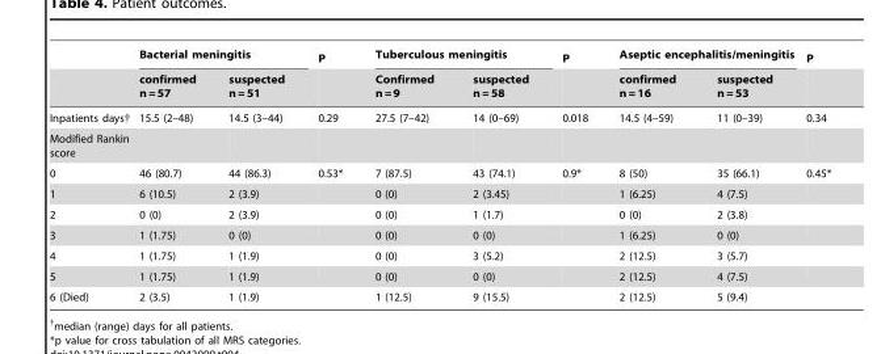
<table><thead><tr><td rowspan="2"></td><td colspan="2">Bacterial meningitis</td><td rowspan="2">P</td><td colspan="2">Tuberculous meningitis</td><td rowspan="2">P</td><td colspan="2">Aseptic encephalitis/meningitis</td><td rowspan="2">P</td></tr><tr><td>confirmed n = 57</td><td>suspected n = 51</td><td>Confirmed n = 9</td><td>suspected n = 58</td><td>confirmed n = 16</td><td>suspected n = 53</td></tr></thead><tbody><tr><td>Inpatients days†</td><td>15.5 (2–48)</td><td>14.5 (3–44)</td><td>0.29</td><td>27.5 (7–42)</td><td>14 (0–69)</td><td>0.018</td><td>14.5 (4–59)</td><td>11 (0–39)</td><td>0.34</td></tr><tr><td colspan="10">Modified Rankin score</td></tr><tr><td>0</td><td>46 (80.7)</td><td>44 (86.3)</td><td>0.53*</td><td>7 (87.5)</td><td>43 (74.1)</td><td>0.9*</td><td>8 (50)</td><td>35 (66.1)</td><td>0.45*</td></tr><tr><td>1</td><td>6 (10.5)</td><td>2 (3.9)</td><td></td><td>0 (0)</td><td>2 (3.45)</td><td></td><td>1 (6.25)</td><td>4 (7.5)</td><td></td></tr><tr><td>2</td><td>0 (0)</td><td>2 (3.9)</td><td></td><td>0 (0)</td><td>1 (1.7)</td><td></td><td>0 (0)</td><td>2 (3.8)</td><td></td></tr><tr><td>3</td><td>1 (1.75)</td><td>0 (0)</td><td></td><td>0 (0)</td><td>0 (0)</td><td></td><td>1 (6.25)</td><td>0 (0)</td><td></td></tr><tr><td>4</td><td>1 (1.75)</td><td>1 (1.9)</td><td></td><td>0 (0)</td><td>3 (5.2)</td><td></td><td>2 (12.5)</td><td>3 (5.7)</td><td></td></tr><tr><td>5</td><td>1 (1.75)</td><td>1 (1.9)</td><td></td><td>0 (0)</td><td>0 (0)</td><td></td><td>2 (12.5)</td><td>4 (7.5)</td><td></td></tr><tr><td>6 (Died)</td><td>2 (3.5)</td><td>1 (1.9)</td><td></td><td>1 (12.5)</td><td>9 (15.5)</td><td></td><td>2 (12.5)</td><td>5 (9.4)</td><td></td></tr></tbody></table>